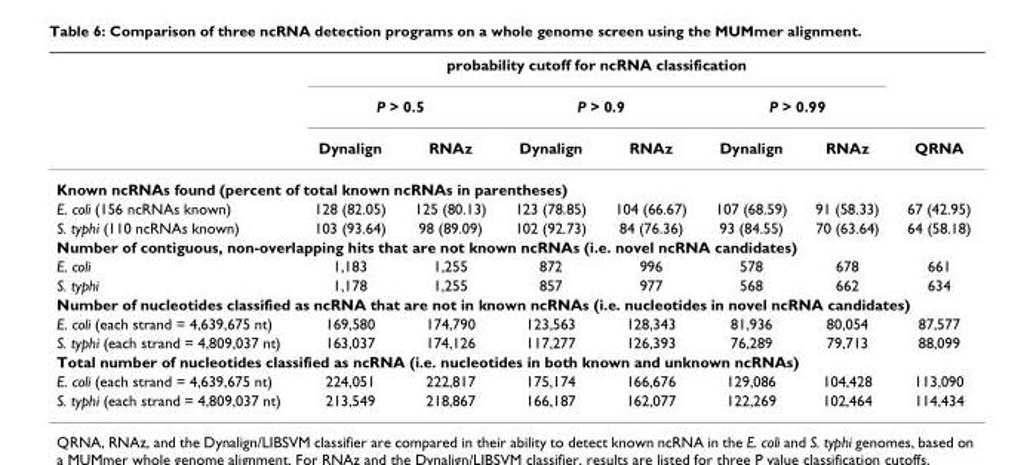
<table><thead><tr><td rowspan="3"></td><td colspan="6">probability cutoff for ncRNA classification</td><td rowspan="3">QRNA</td></tr><tr><td colspan="2">P &gt; 0.5</td><td colspan="2">P &gt; 0.9</td><td colspan="2">P &gt; 0.99</td></tr><tr><td>Dynalign</td><td>RNAz</td><td>Dynalign</td><td>RNAz</td><td>Dynalign</td><td>RNAz</td></tr></thead><tbody><tr><td colspan="8">Known ncRNAs found (percent of total known ncRNAs in parentheses)</td></tr><tr><td>E. coli (156 ncRNAs known)</td><td>128 (82.05)</td><td>125 (80.13)</td><td>123 (78.85)</td><td>104 (66.67)</td><td>107 (68.59)</td><td>91 (58.33)</td><td>67 (42.95)</td></tr><tr><td>S. typhi (110 ncRNAs known)</td><td>103 (93.64)</td><td>98 (89.09)</td><td>102 (92.73)</td><td>84 (76.36)</td><td>93 (84.55)</td><td>70 (63.64)</td><td>64 (58.18)</td></tr><tr><td colspan="8">Number of contiguous, non-overlapping hits that are not known ncRNAs (i.e. novel ncRNA candidates)</td></tr><tr><td>E. coli</td><td>1,183</td><td>1,255</td><td>872</td><td>996</td><td>578</td><td>678</td><td>661</td></tr><tr><td>S. typhi</td><td>1,178</td><td>1,255</td><td>857</td><td>977</td><td>568</td><td>662</td><td>634</td></tr><tr><td colspan="8">Number of nucleotides classified as ncRNA that are not in known ncRNAs (i.e. nucleotides in novel ncRNA candidates)</td></tr><tr><td>E. coli (each strand = 4,639,675 nt)</td><td>169,580</td><td>174,790</td><td>123,563</td><td>128,343</td><td>81,936</td><td>80,054</td><td>87,577</td></tr><tr><td>S. typhi (each strand = 4,809,037 nt)</td><td>163,037</td><td>174,126</td><td>117,277</td><td>126,393</td><td>76,289</td><td>79,713</td><td>88,099</td></tr><tr><td colspan="8">Total number of nucleotides classified as ncRNA (i.e. nucleotides in both known and unknown ncRNAs)</td></tr><tr><td>E. coli (each strand = 4,639,675 nt)</td><td>224,051</td><td>222,817</td><td>175,174</td><td>166,676</td><td>129,086</td><td>104,428</td><td>113,090</td></tr><tr><td>S. typhi (each strand = 4,809,037 nt)</td><td>213,549</td><td>218,867</td><td>166,187</td><td>162,077</td><td>122,269</td><td>102,464</td><td>114,434</td></tr></tbody></table>